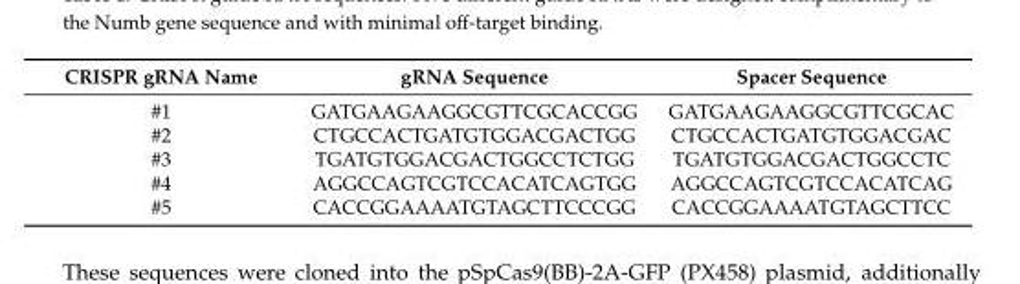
<table><thead><tr><td>CRISPR gRNA Name</td><td>gRNA Sequence</td><td>Spacer Sequence</td></tr></thead><tbody><tr><td>#1</td><td>GATGAAGAAGGCGTTCGCACCGG</td><td>GATGAAGAAGGCGTTCGCAC</td></tr><tr><td>#2</td><td>CTGCCACTGATGTGGACGACTGG</td><td>CTGCCACTGATGTGGACGAC</td></tr><tr><td>#3</td><td>TGATGTGGACGACTGGCCTCTGG</td><td>TGATGTGGACGACTGGCCTC</td></tr><tr><td>#4</td><td>AGGCCAGTCGTCCACATCAGTGG</td><td>AGGCCAGTCGTCCACATCAG</td></tr><tr><td>#5</td><td>CACCGGAAAATGTAGCTTCCCGG</td><td>CACCGGAAAATGTAGCTTCC</td></tr></tbody></table>